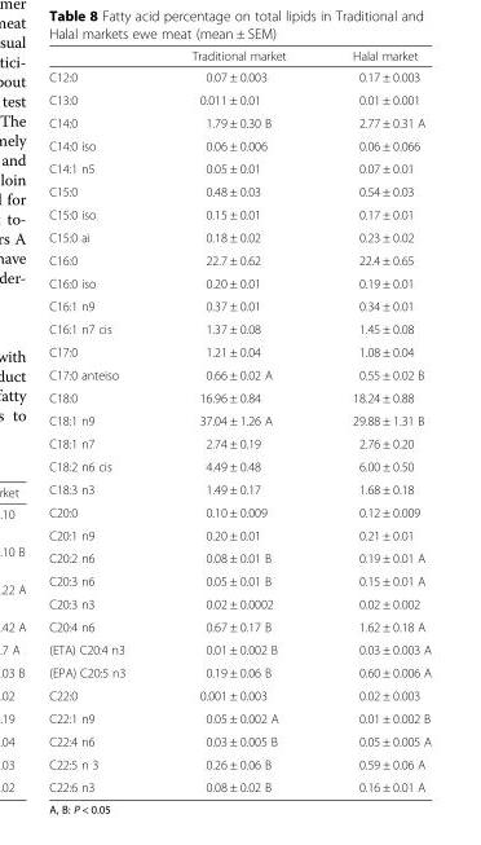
<table><thead><tr><td></td><td>Traditional market</td><td>Halal market</td></tr></thead><tbody><tr><td>C12:0</td><td>0.07 ± 0.003</td><td>0.17 ± 0.003</td></tr><tr><td>C13:0</td><td>0.011 ± 0.01</td><td>0.01 ± 0.001</td></tr><tr><td>C14:0</td><td>1.79 ± 0.30 B</td><td>2.77 ± 0.31 A</td></tr><tr><td>C14:0 iso</td><td>0.06 ± 0.006</td><td>0.06 ± 0.066</td></tr><tr><td>C14:1 n5</td><td>0.05 ± 0.01</td><td>0.07 ± 0.01</td></tr><tr><td>C15:0</td><td>0.48 ± 0.03</td><td>0.54 ± 0.03</td></tr><tr><td>C15:0 iso</td><td>0.15 ± 0.01</td><td>0.17 ± 0.01</td></tr><tr><td>C15:0 ai</td><td>0.18 ± 0.02</td><td>0.23 ± 0.02</td></tr><tr><td>C16:0</td><td>22.7 ± 0.62</td><td>22.4 ± 0.65</td></tr><tr><td>C16:0 iso</td><td>0.20 ± 0.01</td><td>0.19 ± 0.01</td></tr><tr><td>C16:1 n9</td><td>0.37 ± 0.01</td><td>0.34 ± 0.01</td></tr><tr><td>C16:1 n7 cis</td><td>1.37 ± 0.08</td><td>1.45 ± 0.08</td></tr><tr><td>C17:0</td><td>1.21 ± 0.04</td><td>1.08 ± 0.04</td></tr><tr><td>C17:0 anteiso</td><td>0.66 ± 0.02 A</td><td>0.55 ± 0.02 B</td></tr><tr><td>C18:0</td><td>16.96 ± 0.84</td><td>18.24 ± 0.88</td></tr><tr><td>C18:1 n9</td><td>37.04 ± 1.26 A</td><td>29.88 ± 1.31 B</td></tr><tr><td>C18:1 n7</td><td>2.74 ± 0.19</td><td>2.76 ± 0.20</td></tr><tr><td>C18:2 n6 cis</td><td>4.49 ± 0.48</td><td>6.00 ± 0.50</td></tr><tr><td>C18:3 n3</td><td>1.49 ± 0.17</td><td>1.68 ± 0.18</td></tr><tr><td>C20:0</td><td>0.10 ± 0.009</td><td>0.12 ± 0.009</td></tr><tr><td>C20:1 n9</td><td>0.20 ± 0.01</td><td>0.21 ± 0.01</td></tr><tr><td>C20:2 n6</td><td>0.08 ± 0.01 B</td><td>0.19 ± 0.01 A</td></tr><tr><td>C20:3 n6</td><td>0.05 ± 0.01 B</td><td>0.15 ± 0.01 A</td></tr><tr><td>C20:3 n3</td><td>0.02 ± 0.0002</td><td>0.02 ± 0.002</td></tr><tr><td>C20:4 n6</td><td>0.67 ± 0.17 B</td><td>1.62 ± 0.18 A</td></tr><tr><td>(ETA) C20:4 n3</td><td>0.01 ± 0.002 B</td><td>0.03 ± 0.003 A</td></tr><tr><td>(EPA) C20:5 n3</td><td>0.19 ± 0.06 B</td><td>0.60 ± 0.006 A</td></tr><tr><td>C22:0</td><td>0.001 ± 0.003</td><td>0.02 ± 0.003</td></tr><tr><td>C22:1 n9</td><td>0.05 ± 0.002 A</td><td>0.01 ± 0.002 B</td></tr><tr><td>C22:4 n6</td><td>0.03 ± 0.005 B</td><td>0.05 ± 0.005 A</td></tr><tr><td>C22:5 n 3</td><td>0.26 ± 0.06 B</td><td>0.59 ± 0.06 A</td></tr><tr><td>C22:6 n3</td><td>0.08 ± 0.02 B</td><td>0.16 ± 0.01 A</td></tr></tbody></table>